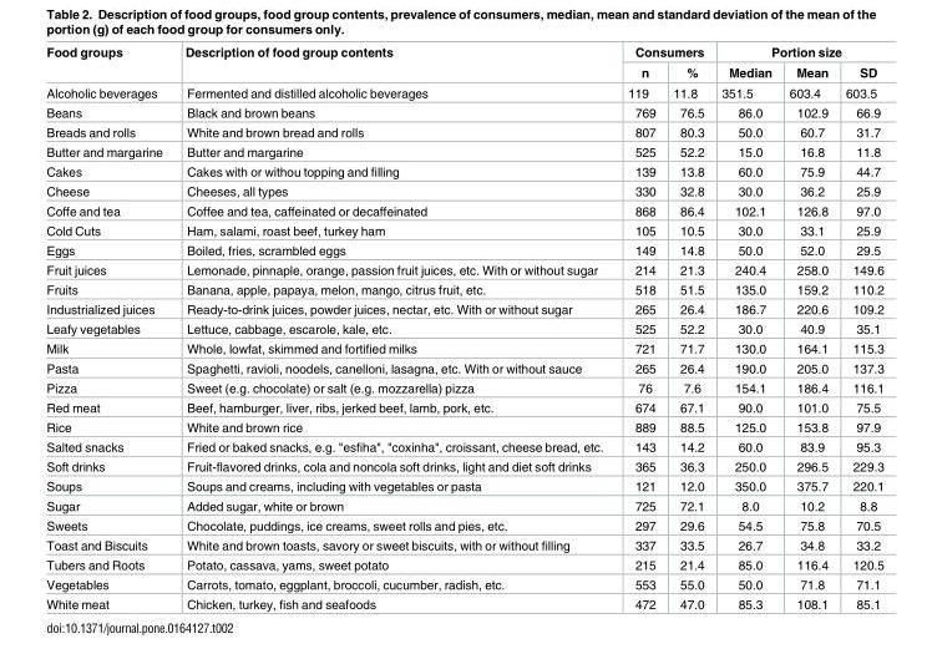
<table><thead><tr><td rowspan="2">Food groups</td><td rowspan="2">Description of food group contents</td><td colspan="2">Consumers</td><td colspan="3">Portion size</td></tr><tr><td>n</td><td>%</td><td>Median</td><td>Mean</td><td>SD</td></tr></thead><tbody><tr><td>Alcoholic beverages</td><td>Fermented and distilled alcoholic beverages</td><td>119</td><td>11.8</td><td>351.5</td><td>603.4</td><td>603.5</td></tr><tr><td>Beans</td><td>Black and brown beans</td><td>769</td><td>76.5</td><td>86.0</td><td>102.9</td><td>66.9</td></tr><tr><td>Breads and rolls</td><td>White and brown bread and rolls</td><td>807</td><td>80.3</td><td>50.0</td><td>60.7</td><td>31.7</td></tr><tr><td>Butter and margarine</td><td>Butter and margarine</td><td>525</td><td>52.2</td><td>15.0</td><td>16.8</td><td>11.8</td></tr><tr><td>Cakes</td><td>Cakes with or withou topping and filling</td><td>139</td><td>13.8</td><td>60.0</td><td>75.9</td><td>44.7</td></tr><tr><td>Cheese</td><td>Cheeses, all types</td><td>330</td><td>32.8</td><td>30.0</td><td>36.2</td><td>25.9</td></tr><tr><td>Coffe and tea</td><td>Coffee and tea, caffeinated or decaffeinated</td><td>868</td><td>86.4</td><td>102.1</td><td>126.8</td><td>97.0</td></tr><tr><td>Cold Cuts</td><td>Ham, salami, roast beef, turkey ham</td><td>105</td><td>10.5</td><td>30.0</td><td>33.1</td><td>25.9</td></tr><tr><td>Eggs</td><td>Boiled, fries, scrambled eggs</td><td>149</td><td>14.8</td><td>50.0</td><td>52.0</td><td>29.5</td></tr><tr><td>Fruit juices</td><td>Lemonade, pinnaple, orange, passion fruit juices, etc. With or without sugar</td><td>214</td><td>21.3</td><td>240.4</td><td>258.0</td><td>149.6</td></tr><tr><td>Fruits</td><td>Banana, apple, papaya, melon, mango, citrus fruit, etc.</td><td>518</td><td>51.5</td><td>135.0</td><td>159.2</td><td>110.2</td></tr><tr><td>Industrialized juices</td><td>Ready-to-drink juices, powder juices, nectar, etc. With or without sugar</td><td>265</td><td>26.4</td><td>186.7</td><td>220.6</td><td>109.2</td></tr><tr><td>Leafy vegetables</td><td>Lettuce, cabbage, escarole, kale, etc.</td><td>525</td><td>52.2</td><td>30.0</td><td>40.9</td><td>35.1</td></tr><tr><td>Milk</td><td>Whole, lowfat, skimmed and fortified milks</td><td>721</td><td>71.7</td><td>130.0</td><td>164.1</td><td>115.3</td></tr><tr><td>Pasta</td><td>Spaghetti, ravioli, noodels, canelloni, lasagna, etc. With or without sauce</td><td>265</td><td>26.4</td><td>190.0</td><td>205.0</td><td>137.3</td></tr><tr><td>Pizza</td><td>Sweet (e.g. chocolate) or salt (e.g. mozzarella) pizza</td><td>76</td><td>7.6</td><td>154.1</td><td>186.4</td><td>116.1</td></tr><tr><td>Red meat</td><td>Beef, hamburger, liver, ribs, jerked beef, lamb, pork, etc.</td><td>674</td><td>67.1</td><td>90.0</td><td>101.0</td><td>75.5</td></tr><tr><td>Rice</td><td>White and brown rice</td><td>889</td><td>88.5</td><td>125.0</td><td>153.8</td><td>97.9</td></tr><tr><td>Salted snacks</td><td>Fried or baked snacks, e.g. &quot;esfiha&quot;, &quot;coxinha&quot;, croissant, cheese bread, etc.</td><td>143</td><td>14.2</td><td>60.0</td><td>83.9</td><td>95.3</td></tr><tr><td>Soft drinks</td><td>Fruit-flavored drinks, cola and noncola soft drinks, light and diet soft drinks</td><td>365</td><td>36.3</td><td>250.0</td><td>296.5</td><td>229.3</td></tr><tr><td>Soups</td><td>Soups and creams, including with vegetables or pasta</td><td>121</td><td>12.0</td><td>350.0</td><td>375.7</td><td>220.1</td></tr><tr><td>Sugar</td><td>Added sugar, white or brown</td><td>725</td><td>72.1</td><td>8.0</td><td>10.2</td><td>8.8</td></tr><tr><td>Sweets</td><td>Chocolate, puddings, ice creams, sweet rolls and pies, etc.</td><td>297</td><td>29.6</td><td>54.5</td><td>75.8</td><td>70.5</td></tr><tr><td>Toast and Biscuits</td><td>White and brown toasts, savory or sweet biscuits, with or without filling</td><td>337</td><td>33.5</td><td>26.7</td><td>34.8</td><td>33.2</td></tr><tr><td>Tubers and Roots</td><td>Potato, cassava, yams, sweet potato</td><td>215</td><td>21.4</td><td>85.0</td><td>116.4</td><td>120.5</td></tr><tr><td>Vegetables</td><td>Carrots, tomato, eggplant, broccoli, cucumber, radish, etc.</td><td>553</td><td>55.0</td><td>50.0</td><td>71.8</td><td>71.1</td></tr><tr><td>White meat</td><td>Chicken, turkey, fish and seafoods</td><td>472</td><td>47.0</td><td>85.3</td><td>108.1</td><td>85.1</td></tr></tbody></table>